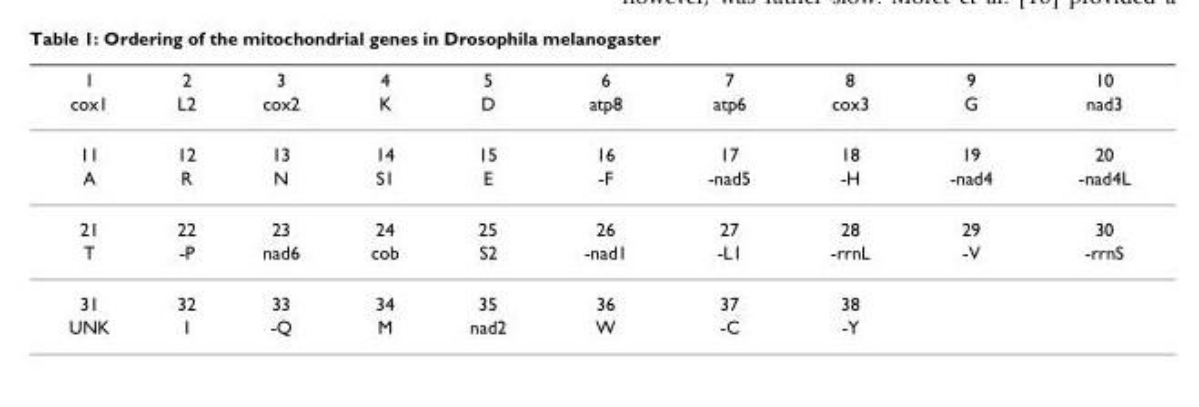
<table><thead><tr><td rowspan="2">1 cox1</td><td rowspan="2">2 L2</td><td rowspan="2">3 cox2</td><td rowspan="2">4 K</td><td rowspan="2">5 D</td><td rowspan="2">6 atp8</td><td rowspan="2">7 atp6</td><td rowspan="2">8 cox3</td><td rowspan="2">9 G</td><td rowspan="2">10 nad3</td></tr><tr></tr></thead><tbody><tr><td>11</td><td>12</td><td>13</td><td>14</td><td>15</td><td>16</td><td>17</td><td>18</td><td>19</td><td>20</td></tr><tr><td>A</td><td>R</td><td>N</td><td>S1</td><td>E</td><td>-F</td><td>-nad5</td><td>-H</td><td>-nad4</td><td>-nad4L</td></tr><tr><td>21</td><td>22</td><td>23</td><td>24</td><td>25</td><td>26</td><td>27</td><td>28</td><td>29</td><td>30</td></tr><tr><td>T</td><td>-P</td><td>nad6</td><td>cob</td><td>S2</td><td>-nad1</td><td>-L1</td><td>-rrnL</td><td>-V</td><td>-rrnS</td></tr><tr><td>31</td><td>32</td><td>33</td><td>34</td><td>35</td><td>36</td><td>37</td><td>38</td><td></td><td></td></tr><tr><td>UNK</td><td>I</td><td>-Q</td><td>M</td><td>nad2</td><td>W</td><td>-C</td><td>-Y</td><td></td><td></td></tr></tbody></table>